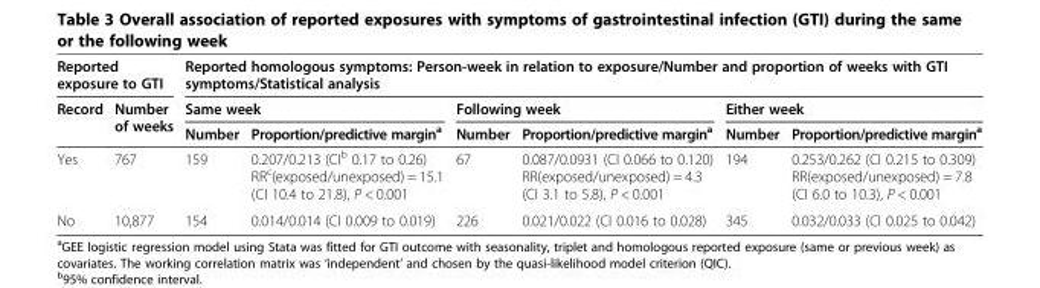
<table><thead><tr><td colspan="2">Reported exposure to GTI</td><td colspan="6">Reported homologous symptoms: Person-week in relation to exposure/Number and proportion of weeks with GTI symptoms/Statistical analysis</td></tr><tr><td rowspan="2">Record</td><td rowspan="2">Number of weeks</td><td colspan="2">Same week</td><td colspan="2">Following week</td><td colspan="2">Either week</td></tr><tr><td>Number</td><td>Proportion/predictive margin<sup>a</sup></td><td>Number</td><td>Proportion/predictive margin<sup>a</sup></td><td>Number</td><td>Proportion/predictive margin<sup>a</sup></td></tr></thead><tbody><tr><td>Yes</td><td>767</td><td>159</td><td>0.207/0.213 (CI<sup>b</sup> 0.17 to 0.26) RR<sup>c</sup>(exposed/unexposed) = 15.1 (CI 10.4 to 21.8), P &lt; 0.001</td><td>67</td><td>0.087/0.0931 (CI 0.066 to 0.120) RR(exposed/unexposed) = 4.3 (CI 3.1 to 5.8), P &lt; 0.001</td><td>194</td><td>0.253/0.262 (CI 0.215 to 0.309) RR(exposed/unexposed) = 7.8 (CI 6.0 to 10.3), P &lt; 0.001</td></tr><tr><td>No</td><td>10,877</td><td>154</td><td>0.014/0.014 (CI 0.009 to 0.019)</td><td>226</td><td>0.021/0.022 (CI 0.016 to 0.028)</td><td>345</td><td>0.032/0.033 (CI 0.025 to 0.042)</td></tr></tbody></table>